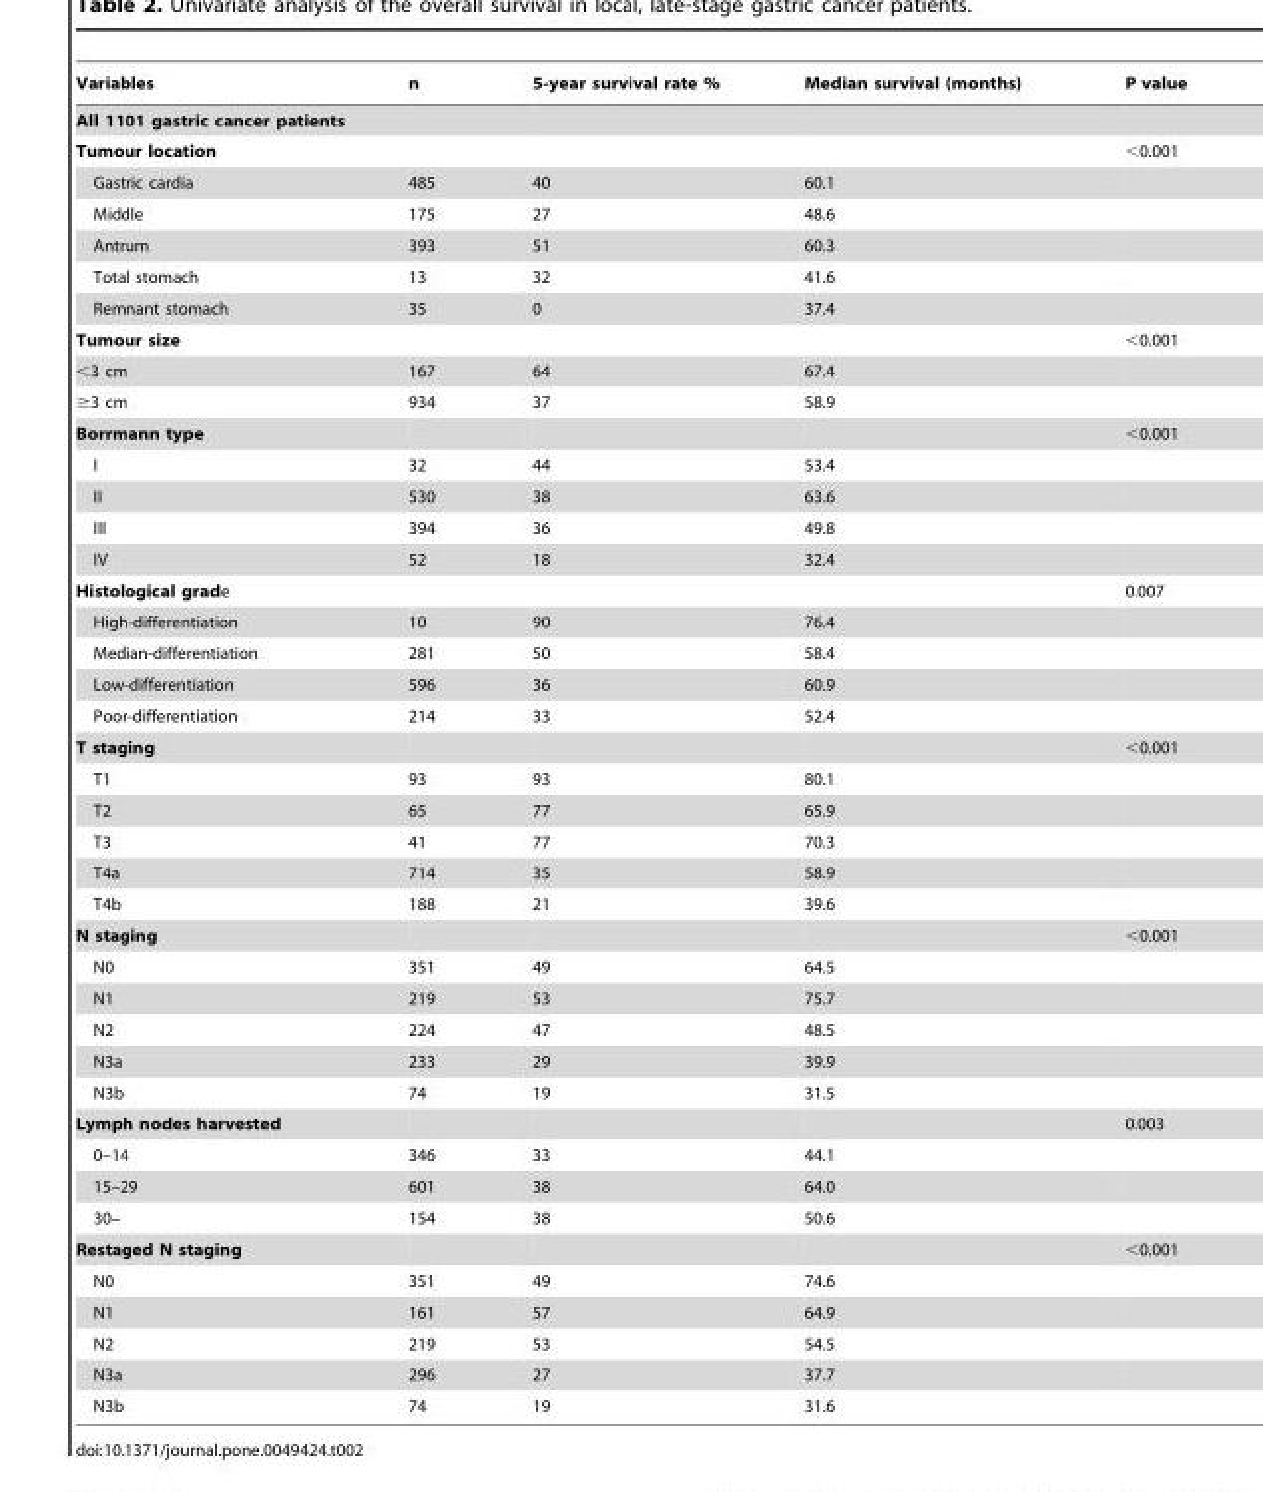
<table><thead><tr><td>Variables</td><td>n</td><td>5-year survival rate %</td><td>Median survival (months)</td><td>P value</td></tr></thead><tbody><tr><td colspan="5">All 1101 gastric cancer patients</td></tr><tr><td colspan="2">Tumour location</td><td></td><td></td><td>&lt;0.001</td></tr><tr><td>Gastric cardia</td><td>485</td><td>40</td><td>60.1</td><td></td></tr><tr><td>Middle</td><td>175</td><td>27</td><td>48.6</td><td></td></tr><tr><td>Antrum</td><td>393</td><td>51</td><td>60.3</td><td></td></tr><tr><td>Total stomach</td><td>13</td><td>32</td><td>41.6</td><td></td></tr><tr><td>Remnant stomach</td><td>35</td><td>0</td><td>37.4</td><td></td></tr><tr><td>Tumour size</td><td></td><td></td><td></td><td>&lt;0.001</td></tr><tr><td>&lt;3 cm</td><td>167</td><td>64</td><td>67.4</td><td></td></tr><tr><td>≥3 cm</td><td>934</td><td>37</td><td>58.9</td><td></td></tr><tr><td>Borrmann type</td><td></td><td></td><td></td><td>&lt;0.001</td></tr><tr><td>I</td><td>32</td><td>44</td><td>53.4</td><td></td></tr><tr><td>II</td><td>530</td><td>38</td><td>63.6</td><td></td></tr><tr><td>III</td><td>394</td><td>36</td><td>49.8</td><td></td></tr><tr><td>IV</td><td>52</td><td>18</td><td>32.4</td><td></td></tr><tr><td>Histological grade</td><td></td><td></td><td></td><td>0.007</td></tr><tr><td>High-differentiation</td><td>10</td><td>90</td><td>76.4</td><td></td></tr><tr><td>Median-differentiation</td><td>281</td><td>50</td><td>58.4</td><td></td></tr><tr><td>Low-differentiation</td><td>596</td><td>36</td><td>60.9</td><td></td></tr><tr><td>Poor-differentiation</td><td>214</td><td>33</td><td>52.4</td><td></td></tr><tr><td>T staging</td><td></td><td></td><td></td><td>&lt;0.001</td></tr><tr><td>T1</td><td>93</td><td>93</td><td>80.1</td><td></td></tr><tr><td>T2</td><td>65</td><td>77</td><td>65.9</td><td></td></tr><tr><td>T3</td><td>41</td><td>77</td><td>70.3</td><td></td></tr><tr><td>T4a</td><td>714</td><td>35</td><td>58.9</td><td></td></tr><tr><td>T4b</td><td>188</td><td>21</td><td>39.6</td><td></td></tr><tr><td>N staging</td><td></td><td></td><td></td><td>&lt;0.001</td></tr><tr><td>N0</td><td>351</td><td>49</td><td>64.5</td><td></td></tr><tr><td>N1</td><td>219</td><td>53</td><td>75.7</td><td></td></tr><tr><td>N2</td><td>224</td><td>47</td><td>48.5</td><td></td></tr><tr><td>N3a</td><td>233</td><td>29</td><td>39.9</td><td></td></tr><tr><td>N3b</td><td>74</td><td>19</td><td>31.5</td><td></td></tr><tr><td>Lymph nodes harvested</td><td></td><td></td><td></td><td>0.003</td></tr><tr><td>0–14</td><td>346</td><td>33</td><td>44.1</td><td></td></tr><tr><td>15–29</td><td>601</td><td>38</td><td>64.0</td><td></td></tr><tr><td>30–</td><td>154</td><td>38</td><td>50.6</td><td></td></tr><tr><td>Restaged N staging</td><td></td><td></td><td></td><td>&lt;0.001</td></tr><tr><td>N0</td><td>351</td><td>49</td><td>74.6</td><td></td></tr><tr><td>N1</td><td>161</td><td>57</td><td>64.9</td><td></td></tr><tr><td>N2</td><td>219</td><td>53</td><td>54.5</td><td></td></tr><tr><td>N3a</td><td>296</td><td>27</td><td>37.7</td><td></td></tr><tr><td>N3b</td><td>74</td><td>19</td><td>31.6</td><td></td></tr></tbody></table>